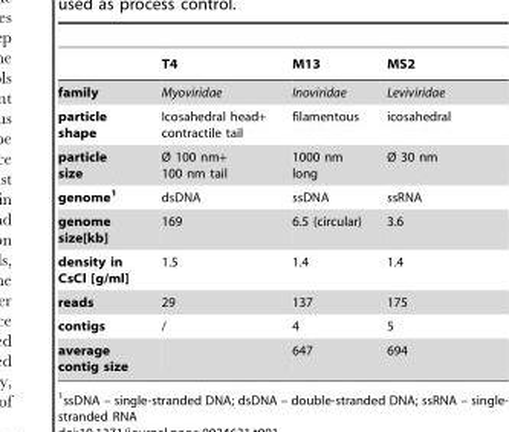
<table><thead><tr><td></td><td>T4</td><td>M13</td><td>MS2</td></tr></thead><tbody><tr><td>family</td><td>Myoviridae</td><td>Inoviridae</td><td>Leviviridae</td></tr><tr><td>particle shape</td><td>Icosahedral head+ contractile tail</td><td>filamentous</td><td>icosahedral</td></tr><tr><td>particle size</td><td>Ø 100 nm+ 100 nm tail</td><td>1000 nm long</td><td>Ø 30 nm</td></tr><tr><td>genome1</td><td>dsDNA</td><td>ssDNA</td><td>ssRNA</td></tr><tr><td>genome size[kb]</td><td>169</td><td>6.5 (circular)</td><td>3.6</td></tr><tr><td>density in CsCl [g/ml]</td><td>1.5</td><td>1.4</td><td>1.4</td></tr><tr><td>reads</td><td>29</td><td>137</td><td>175</td></tr><tr><td>contigs</td><td>/</td><td>4</td><td>5</td></tr><tr><td>average contig size</td><td></td><td>647</td><td>694</td></tr></tbody></table>